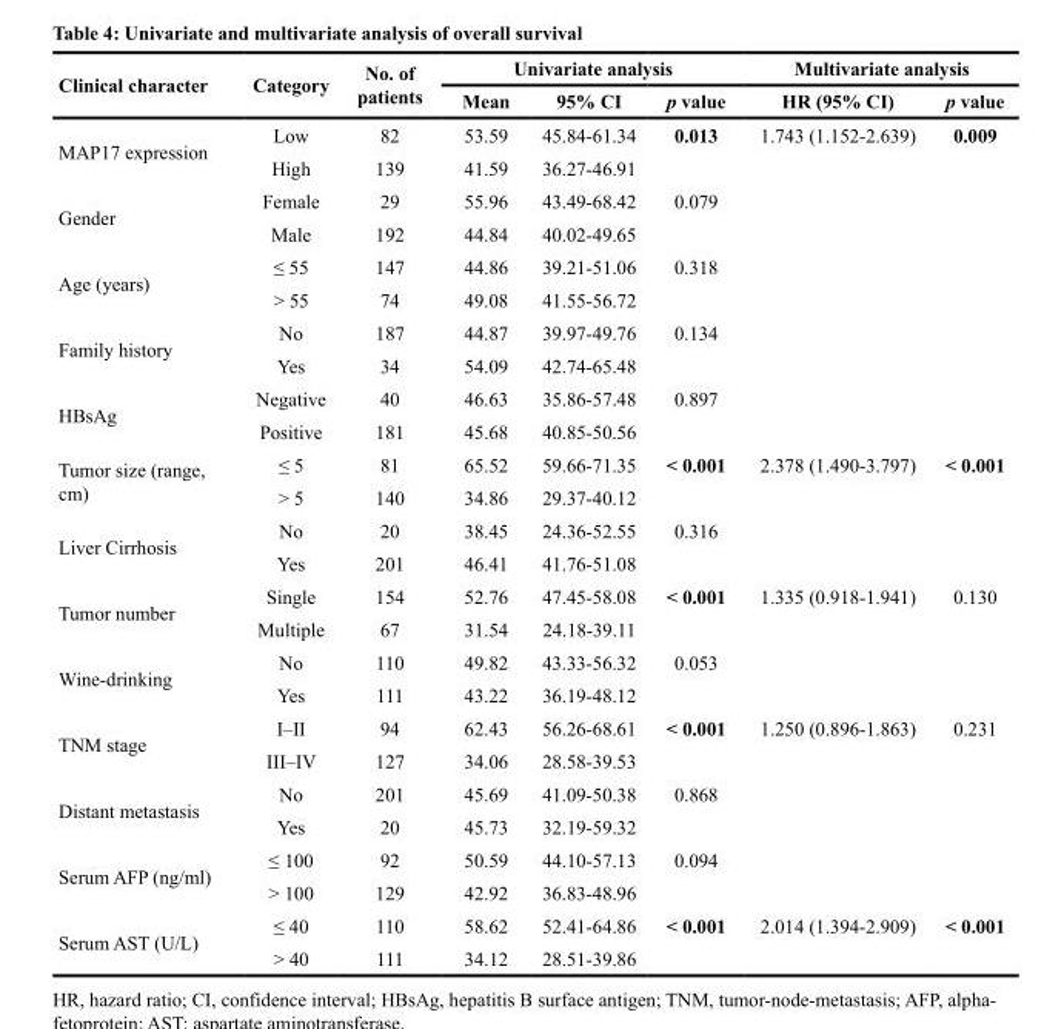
<table><thead><tr><td rowspan="2">Clinical character</td><td rowspan="2">Category</td><td rowspan="2">No. of patients</td><td colspan="3">Univariate analysis</td><td colspan="2">Multivariate analysis</td></tr><tr><td>Mean</td><td>95% CI</td><td>p value</td><td>HR (95% CI)</td><td>p value</td></tr></thead><tbody><tr><td rowspan="2">MAP17 expression</td><td>Low</td><td>82</td><td>53.59</td><td>45.84-61.34</td><td>0.013</td><td>1.743 (1.152-2.639)</td><td>0.009</td></tr><tr><td>High</td><td>139</td><td>41.59</td><td>36.27-46.91</td><td></td><td></td><td></td></tr><tr><td rowspan="2">Gender</td><td>Female</td><td>29</td><td>55.96</td><td>43.49-68.42</td><td>0.079</td><td></td><td></td></tr><tr><td>Male</td><td>192</td><td>44.84</td><td>40.02-49.65</td><td></td><td></td><td></td></tr><tr><td rowspan="2">Age (years)</td><td>≤ 55</td><td>147</td><td>44.86</td><td>39.21-51.06</td><td>0.318</td><td></td><td></td></tr><tr><td>&gt; 55</td><td>74</td><td>49.08</td><td>41.55-56.72</td><td></td><td></td><td></td></tr><tr><td rowspan="2">Family history</td><td>No</td><td>187</td><td>44.87</td><td>39.97-49.76</td><td>0.134</td><td></td><td></td></tr><tr><td>Yes</td><td>34</td><td>54.09</td><td>42.74-65.48</td><td></td><td></td><td></td></tr><tr><td rowspan="2">HBsAg</td><td>Negative</td><td>40</td><td>46.63</td><td>35.86-57.48</td><td>0.897</td><td></td><td></td></tr><tr><td>Positive</td><td>181</td><td>45.68</td><td>40.85-50.56</td><td></td><td></td><td></td></tr><tr><td rowspan="2">Tumor size (range, cm)</td><td>≤ 5</td><td>81</td><td>65.52</td><td>59.66-71.35</td><td>&lt; 0.001</td><td>2.378 (1.490-3.797)</td><td>&lt; 0.001</td></tr><tr><td>&gt; 5</td><td>140</td><td>34.86</td><td>29.37-40.12</td><td></td><td></td><td></td></tr><tr><td rowspan="2">Liver Cirrhosis</td><td>No</td><td>20</td><td>38.45</td><td>24.36-52.55</td><td>0.316</td><td></td><td></td></tr><tr><td>Yes</td><td>201</td><td>46.41</td><td>41.76-51.08</td><td></td><td></td><td></td></tr><tr><td rowspan="2">Tumor number</td><td>Single</td><td>154</td><td>52.76</td><td>47.45-58.08</td><td>&lt; 0.001</td><td>1.335 (0.918-1.941)</td><td>0.130</td></tr><tr><td>Multiple</td><td>67</td><td>31.54</td><td>24.18-39.11</td><td></td><td></td><td></td></tr><tr><td rowspan="2">Wine-drinking</td><td>No</td><td>110</td><td>49.82</td><td>43.33-56.32</td><td>0.053</td><td></td><td></td></tr><tr><td>Yes</td><td>111</td><td>43.22</td><td>36.19-48.12</td><td></td><td></td><td></td></tr><tr><td rowspan="2">TNM stage</td><td>I–II</td><td>94</td><td>62.43</td><td>56.26-68.61</td><td>&lt; 0.001</td><td>1.250 (0.896-1.863)</td><td>0.231</td></tr><tr><td>III–IV</td><td>127</td><td>34.06</td><td>28.58-39.53</td><td></td><td></td><td></td></tr><tr><td rowspan="2">Distant metastasis</td><td>No</td><td>201</td><td>45.69</td><td>41.09-50.38</td><td>0.868</td><td></td><td></td></tr><tr><td>Yes</td><td>20</td><td>45.73</td><td>32.19-59.32</td><td></td><td></td><td></td></tr><tr><td rowspan="2">Serum AFP (ng/ml)</td><td>≤ 100</td><td>92</td><td>50.59</td><td>44.10-57.13</td><td>0.094</td><td></td><td></td></tr><tr><td>&gt; 100</td><td>129</td><td>42.92</td><td>36.83-48.96</td><td></td><td></td><td></td></tr><tr><td rowspan="2">Serum AST (U/L)</td><td>≤ 40</td><td>110</td><td>58.62</td><td>52.41-64.86</td><td>&lt; 0.001</td><td>2.014 (1.394-2.909)</td><td>&lt; 0.001</td></tr><tr><td>&gt; 40</td><td>111</td><td>34.12</td><td>28.51-39.86</td><td></td><td></td><td></td></tr></tbody></table>